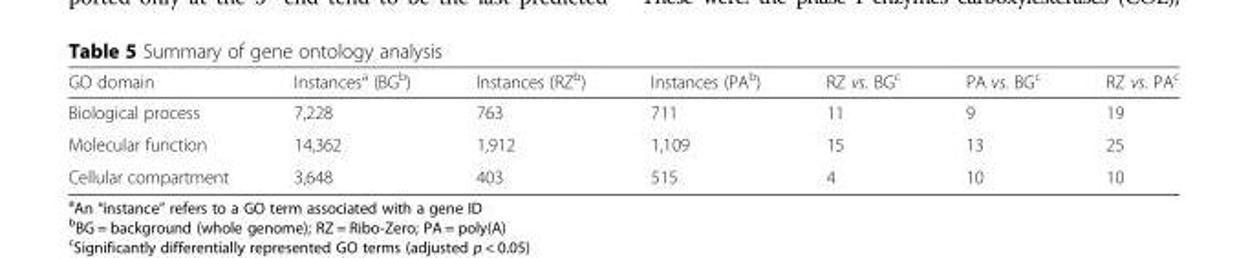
<table><thead><tr><td>GO domain</td><td>Instances<sup>a</sup> (BG<sup>b</sup>)</td><td>Instances (RZ<sup>b</sup>)</td><td>Instances (PA<sup>b</sup>)</td><td>RZ vs. BG<sup>c</sup></td><td>PA vs. BG<sup>c</sup></td><td>RZ vs. PA<sup>c</sup></td></tr></thead><tbody><tr><td>Biological process</td><td>7,228</td><td>763</td><td>711</td><td>11</td><td>9</td><td>19</td></tr><tr><td>Molecular function</td><td>14,362</td><td>1,912</td><td>1,109</td><td>15</td><td>13</td><td>25</td></tr><tr><td>Cellular compartment</td><td>3,648</td><td>403</td><td>515</td><td>4</td><td>10</td><td>10</td></tr></tbody></table>